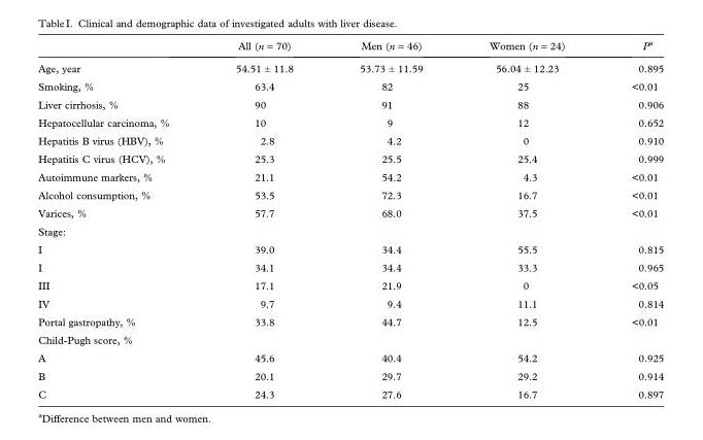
<table><thead><tr><td></td><td>All (n = 70)</td><td>Men (n = 46)</td><td>Women (n = 24)</td><td>P<sup>a</sup></td></tr></thead><tbody><tr><td>Age, year</td><td>54.51 ± 11.8</td><td>53.73 ± 11.59</td><td>56.04 ± 12.23</td><td>0.895</td></tr><tr><td>Smoking, %</td><td>63.4</td><td>82</td><td>25</td><td>&lt;0.01</td></tr><tr><td>Liver cirrhosis, %</td><td>90</td><td>91</td><td>88</td><td>0.906</td></tr><tr><td>Hepatocellular carcinoma, %</td><td>10</td><td>9</td><td>12</td><td>0.652</td></tr><tr><td>Hepatitis B virus (HBV), %</td><td>2.8</td><td>4.2</td><td>0</td><td>0.910</td></tr><tr><td>Hepatitis C virus (HCV), %</td><td>25.3</td><td>25.5</td><td>25.4</td><td>0.999</td></tr><tr><td>Autoimmune markers, %</td><td>21.1</td><td>54.2</td><td>4.3</td><td>&lt;0.01</td></tr><tr><td>Alcohol consumption, %</td><td>53.5</td><td>72.3</td><td>16.7</td><td>&lt;0.01</td></tr><tr><td>Varices, %</td><td>57.7</td><td>68.0</td><td>37.5</td><td>&lt;0.01</td></tr><tr><td colspan="5">Stage:</td></tr><tr><td>I</td><td>39.0</td><td>34.4</td><td>55.5</td><td>0.815</td></tr><tr><td>I</td><td>34.1</td><td>34.4</td><td>33.3</td><td>0.965</td></tr><tr><td>III</td><td>17.1</td><td>21.9</td><td>0</td><td>&lt;0.05</td></tr><tr><td>IV</td><td>9.7</td><td>9.4</td><td>11.1</td><td>0.814</td></tr><tr><td>Portal gastropathy, %</td><td>33.8</td><td>44.7</td><td>12.5</td><td>&lt;0.01</td></tr><tr><td colspan="5">Child-Pugh score, %</td></tr><tr><td>A</td><td>45.6</td><td>40.4</td><td>54.2</td><td>0.925</td></tr><tr><td>B</td><td>20.1</td><td>29.7</td><td>29.2</td><td>0.914</td></tr><tr><td>C</td><td>24.3</td><td>27.6</td><td>16.7</td><td>0.897</td></tr></tbody></table>